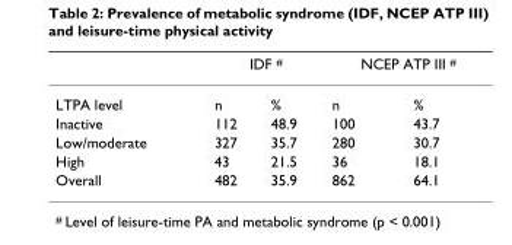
<table><thead><tr><td rowspan="2">LTPA level</td><td colspan="2">IDF <sup>#</sup></td><td colspan="2">NCEP ATP III <sup>#</sup></td></tr><tr><td>n</td><td>%</td><td>n</td><td>%</td></tr></thead><tbody><tr><td>Inactive</td><td>112</td><td>48.9</td><td>100</td><td>43.7</td></tr><tr><td>Low/moderate</td><td>327</td><td>35.7</td><td>280</td><td>30.7</td></tr><tr><td>High</td><td>43</td><td>21.5</td><td>36</td><td>18.1</td></tr><tr><td>Overall</td><td>482</td><td>35.9</td><td>862</td><td>64.1</td></tr></tbody></table>